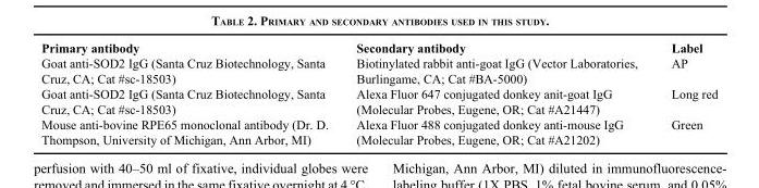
<table><thead><tr><td>Primary antibody</td><td>Secondary antibody</td><td>Label</td></tr></thead><tbody><tr><td>Goat anti-SOD2 IgG (Santa Cruz Biotechnology, Santa Cruz, CA; Cat #sc-18503)</td><td>Biotinylated rabbit anti-goat IgG (Vector Laboratories, Burlingame, CA; Cat #BA-5000)</td><td>AP</td></tr><tr><td>Goat anti-SOD2 IgG (Santa Cruz Biotechnology, Santa Cruz, CA; Cat #sc-18503)</td><td>Alexa Fluor 647 conjugated donkey anit-goat IgG (Molecular Probes, Eugene, OR; Cat #A21447)</td><td>Long red</td></tr><tr><td>Mouse anti-bovine RPE65 monoclonal antibody (Dr. D. Thompson, University of Michigan, Ann Arbor, MI)</td><td>Alexa Fluor 488 conjugated donkey anti-mouse IgG (Molecular Probes, Eugene, OR; Cat #A21202)</td><td>Green</td></tr></tbody></table>